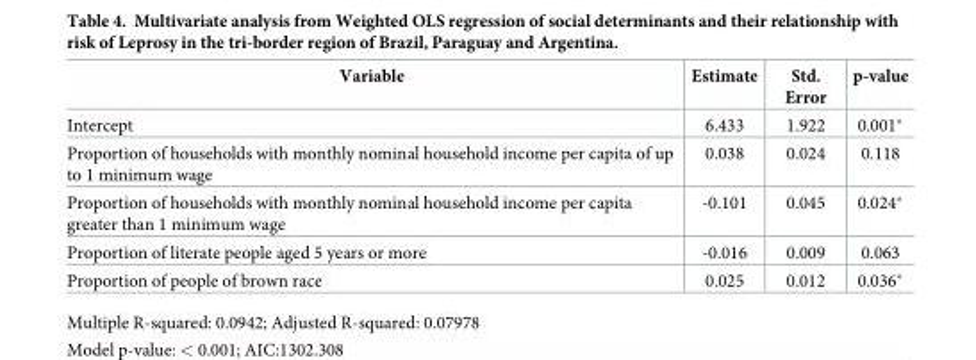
<table><thead><tr><td>Variable</td><td>Estimate</td><td>Std. Error</td><td>p-value</td></tr></thead><tbody><tr><td>Intercept</td><td>6.433</td><td>1.922</td><td>0.001*</td></tr><tr><td>Proportion of households with monthly nominal household income per capita of up to 1 minimum wage</td><td>0.038</td><td>0.024</td><td>0.118</td></tr><tr><td>Proportion of households with monthly nominal household income per capita greater than 1 minimum wage</td><td>-0.101</td><td>0.045</td><td>0.024*</td></tr><tr><td>Proportion of literate people aged 5 years or more</td><td>-0.016</td><td>0.009</td><td>0.063</td></tr><tr><td>Proportion of people of brown race</td><td>0.025</td><td>0.012</td><td>0.036*</td></tr></tbody></table>